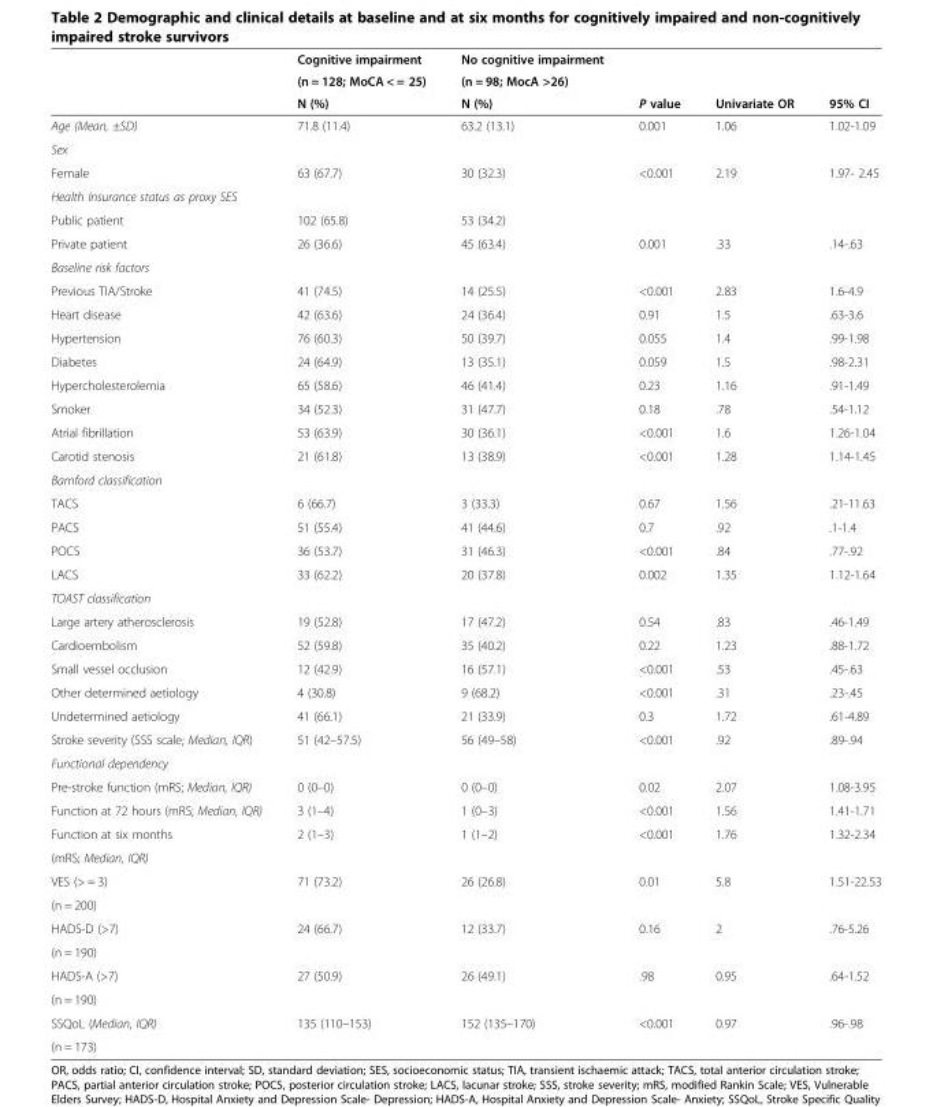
<table><thead><tr><td rowspan="3"></td><td rowspan="3">Cognitive impairment (n = 128; MoCA &lt; = 25) N (%)</td><td rowspan="3">No cognitive impairment (n = 98; MocA &gt;26) N (%)</td><td rowspan="3">P value</td><td rowspan="3">Univariate OR</td><td rowspan="3">95% CI</td></tr><tr></tr><tr></tr></thead><tbody><tr><td>Age (Mean, ±SD)</td><td>71.8 (11.4)</td><td>63.2 (13.1)</td><td>0.001</td><td>1.06</td><td>1.02-1.09</td></tr><tr><td colspan="6">Sex</td></tr><tr><td>Female</td><td>63 (67.7)</td><td>30 (32.3)</td><td>&lt;0.001</td><td>2.19</td><td>1.97- 2.45</td></tr><tr><td colspan="6">Health Insurance status as proxy SES</td></tr><tr><td>Public patient</td><td>102 (65.8)</td><td>53 (34.2)</td><td></td><td></td><td></td></tr><tr><td>Private patient</td><td>26 (36.6)</td><td>45 (63.4)</td><td>0.001</td><td>.33</td><td>.14-.63</td></tr><tr><td colspan="6">Baseline risk factors</td></tr><tr><td>Previous TIA/Stroke</td><td>41 (74.5)</td><td>14 (25.5)</td><td>&lt;0.001</td><td>2.83</td><td>1.6-4.9</td></tr><tr><td>Heart disease</td><td>42 (63.6)</td><td>24 (36.4)</td><td>0.91</td><td>1.5</td><td>.63-3.6</td></tr><tr><td>Hypertension</td><td>76 (60.3)</td><td>50 (39.7)</td><td>0.055</td><td>1.4</td><td>.99-1.98</td></tr><tr><td>Diabetes</td><td>24 (64.9)</td><td>13 (35.1)</td><td>0.059</td><td>1.5</td><td>.98-2.31</td></tr><tr><td>Hypercholesterolemia</td><td>65 (58.6)</td><td>46 (41.4)</td><td>0.23</td><td>1.16</td><td>.91-1.49</td></tr><tr><td>Smoker</td><td>34 (52.3)</td><td>31 (47.7)</td><td>0.18</td><td>.78</td><td>.54-1.12</td></tr><tr><td>Atrial fibrillation</td><td>53 (63.9)</td><td>30 (36.1)</td><td>&lt;0.001</td><td>1.6</td><td>1.26-1.04</td></tr><tr><td>Carotid stenosis</td><td>21 (61.8)</td><td>13 (38.9)</td><td>&lt;0.001</td><td>1.28</td><td>1.14-1.45</td></tr><tr><td colspan="6">Bamford classification</td></tr><tr><td>TACS</td><td>6 (66.7)</td><td>3 (33.3)</td><td>0.67</td><td>1.56</td><td>.21-11.63</td></tr><tr><td>PACS</td><td>51 (55.4)</td><td>41 (44.6)</td><td>0.7</td><td>.92</td><td>.1-1.4</td></tr><tr><td>POCS</td><td>36 (53.7)</td><td>31 (46.3)</td><td>&lt;0.001</td><td>.84</td><td>.77-.92</td></tr><tr><td>LACS</td><td>33 (62.2)</td><td>20 (37.8)</td><td>0.002</td><td>1.35</td><td>1.12-1.64</td></tr><tr><td colspan="6">TOAST classification</td></tr><tr><td>Large artery atherosclerosis</td><td>19 (52.8)</td><td>17 (47.2)</td><td>0.54</td><td>.83</td><td>.46-1.49</td></tr><tr><td>Cardioembolism</td><td>52 (59.8)</td><td>35 (40.2)</td><td>0.22</td><td>1.23</td><td>.88-1.72</td></tr><tr><td>Small vessel occlusion</td><td>12 (42.9)</td><td>16 (57.1)</td><td>&lt;0.001</td><td>.53</td><td>.45-.63</td></tr><tr><td>Other determined aetiology</td><td>4 (30.8)</td><td>9 (68.2)</td><td>&lt;0.001</td><td>.31</td><td>.23-.45</td></tr><tr><td>Undetermined aetiology</td><td>41 (66.1)</td><td>21 (33.9)</td><td>0.3</td><td>1.72</td><td>.61-4.89</td></tr><tr><td>Stroke severity (SSS scale; Median, IQR)</td><td>51 (42–57.5)</td><td>56 (49–58)</td><td>&lt;0.001</td><td>.92</td><td>.89-.94</td></tr><tr><td colspan="6">Functional dependency</td></tr><tr><td>Pre-stroke function (mRS; Median, IQR)</td><td>0 (0–0)</td><td>0 (0–0)</td><td>0.02</td><td>2.07</td><td>1.08-3.95</td></tr><tr><td>Function at 72 hours (mRS; Median, IQR)</td><td>3 (1–4)</td><td>1 (0–3)</td><td>&lt;0.001</td><td>1.56</td><td>1.41-1.71</td></tr><tr><td>Function at six months</td><td rowspan="2">2 (1–3)</td><td rowspan="2">1 (1–2)</td><td rowspan="2">&lt;0.001</td><td rowspan="2">1.76</td><td rowspan="2">1.32-2.34</td></tr><tr><td>(mRS; Median, IQR)</td></tr><tr><td>VES (&gt; = 3)</td><td rowspan="2">71 (73.2)</td><td rowspan="2">26 (26.8)</td><td rowspan="2">0.01</td><td rowspan="2">5.8</td><td rowspan="2">1.51-22.53</td></tr><tr><td>(n = 200)</td></tr><tr><td>HADS-D (&gt;7)</td><td rowspan="2">24 (66.7)</td><td rowspan="2">12 (33.7)</td><td rowspan="2">0.16</td><td rowspan="2">2</td><td rowspan="2">.76-5.26</td></tr><tr><td>(n = 190)</td></tr><tr><td>HADS-A (&gt;7)</td><td rowspan="2">27 (50.9)</td><td rowspan="2">26 (49.1)</td><td rowspan="2">.98</td><td rowspan="2">0.95</td><td rowspan="2">.64-1.52</td></tr><tr><td>(n = 190)</td></tr><tr><td>SSQoL (Median, IQR)</td><td rowspan="2">135 (110–153)</td><td rowspan="2">152 (135–170)</td><td rowspan="2">&lt;0.001</td><td rowspan="2">0.97</td><td rowspan="2">.96-.98</td></tr><tr><td>(n = 173)</td></tr></tbody></table>